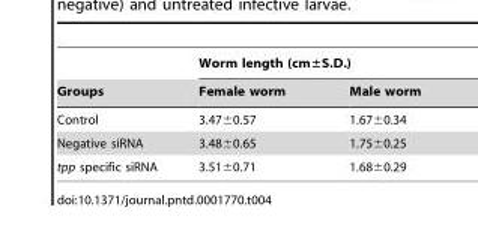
<table><thead><tr><td rowspan="2">Groups</td><td colspan="2">Worm length (cm±S.D.)</td></tr><tr><td>Female worm</td><td>Male worm</td></tr></thead><tbody><tr><td>Control</td><td>3.47±0.57</td><td>1.67±0.34</td></tr><tr><td>Negative siRNA</td><td>3.48±0.65</td><td>1.75±0.25</td></tr><tr><td>tpp specific siRNA</td><td>3.51±0.71</td><td>1.68±0.29</td></tr></tbody></table>